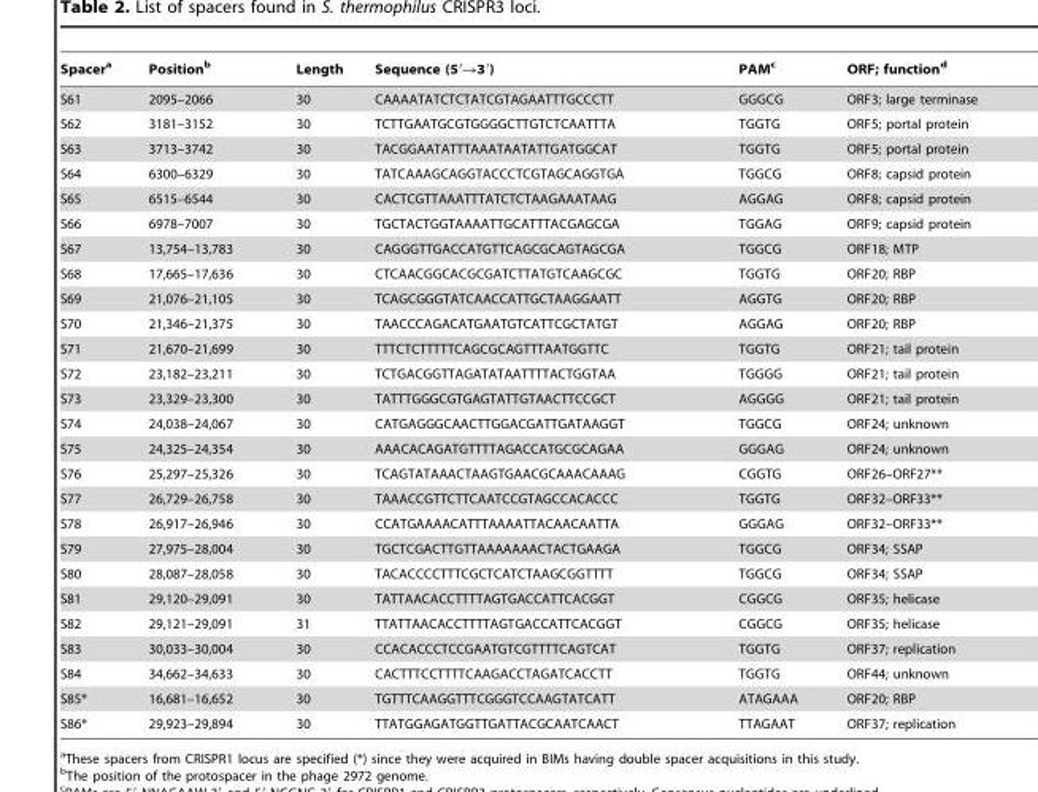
<table><thead><tr><td>Spacer<sup>a</sup></td><td>Position<sup>b</sup></td><td>Length</td><td>Sequence (5′→3′)</td><td>PAM<sup>c</sup></td><td>ORF; function<sup>d</sup></td></tr></thead><tbody><tr><td>S61</td><td>2095–2066</td><td>30</td><td>CAAAATATCTCTATCGTAGAATTTGCCCTT</td><td>GGGCG</td><td>ORF3; large terminase</td></tr><tr><td>S62</td><td>3181–3152</td><td>30</td><td>TCTTGAATGCGTGGGGCTTGTCTCAATTTA</td><td>TGGTG</td><td>ORF5; portal protein</td></tr><tr><td>S63</td><td>3713–3742</td><td>30</td><td>TACGGAATATTTAAATAATATTGATGGCAT</td><td>TGGTG</td><td>ORF5; portal protein</td></tr><tr><td>S64</td><td>6300–6329</td><td>30</td><td>TATCAAAGCAGGTACCCTCGTAGCAGGTGA</td><td>TGGCG</td><td>ORF8; capsid protein</td></tr><tr><td>S65</td><td>6515–6544</td><td>30</td><td>CACTCGTTAAATTTATCTCTAAGAAATAAG</td><td>AGGAG</td><td>ORF8; capsid protein</td></tr><tr><td>S66</td><td>6978–7007</td><td>30</td><td>TGCTACTGGTAAAATTGCATTTACGAGCGA</td><td>TGGAG</td><td>ORF9; capsid protein</td></tr><tr><td>S67</td><td>13,754–13,783</td><td>30</td><td>CAGGGTTGACCATGTTCAGCGCAGTAGCGA</td><td>TGGCG</td><td>ORF18; MTP</td></tr><tr><td>S68</td><td>17,665–17,636</td><td>30</td><td>CTCAACGGCACGCGATCTTATGTCAAGCGC</td><td>TGGTG</td><td>ORF20; RBP</td></tr><tr><td>S69</td><td>21,076–21,105</td><td>30</td><td>TCAGCGGGTATCAACCATTGCTAAGGAATT</td><td>AGGTG</td><td>ORF20; RBP</td></tr><tr><td>S70</td><td>21,346–21,375</td><td>30</td><td>TAACCCAGACATGAATGTCATTCGCTATGT</td><td>AGGAG</td><td>ORF20; RBP</td></tr><tr><td>S71</td><td>21,670–21,699</td><td>30</td><td>TTTCTCTTTTTCAGCGCAGTTTAATGGTTC</td><td>TGGTG</td><td>ORF21; tail protein</td></tr><tr><td>S72</td><td>23,182–23,211</td><td>30</td><td>TCTGACGGTTAGATATAATTTTACTGGTAA</td><td>TGGGG</td><td>ORF21; tail protein</td></tr><tr><td>S73</td><td>23,329–23,300</td><td>30</td><td>TATTTGGGCGTGAGTATTGTAACTTCCGCT</td><td>AGGGG</td><td>ORF21; tail protein</td></tr><tr><td>S74</td><td>24,038–24,067</td><td>30</td><td>CATGAGGGCAACTTGGACGATTGATAAGGT</td><td>TGGCG</td><td>ORF24; unknown</td></tr><tr><td>S75</td><td>24,325–24,354</td><td>30</td><td>AAACACAGATGTTTTAGACCATGCGCAGAA</td><td>GGGAG</td><td>ORF24; unknown</td></tr><tr><td>S76</td><td>25,297–25,326</td><td>30</td><td>TCAGTATAAACTAAGTGAACGCAAACAAAG</td><td>CGGTG</td><td>ORF26–ORF27**</td></tr><tr><td>S77</td><td>26,729–26,758</td><td>30</td><td>TAAACCGTTCTTCAATCCGTAGCCACACCC</td><td>TGGTG</td><td>ORF32–ORF33**</td></tr><tr><td>S78</td><td>26,917–26,946</td><td>30</td><td>CCATGAAAACATTTAAAATTACAACAATTA</td><td>GGGAG</td><td>ORF32–ORF33**</td></tr><tr><td>S79</td><td>27,975–28,004</td><td>30</td><td>TGCTCGACTTGTTAAAAAAACTACTGAAGA</td><td>TGGCG</td><td>ORF34; SSAP</td></tr><tr><td>S80</td><td>28,087–28,058</td><td>30</td><td>TACACCCCTTTCGCTCATCTAAGCGGTTTT</td><td>TGGCG</td><td>ORF34; SSAP</td></tr><tr><td>S81</td><td>29,120–29,091</td><td>30</td><td>TATTAACACCTTTTAGTGACCATTCACGGT</td><td>CGGCG</td><td>ORF35; helicase</td></tr><tr><td>S82</td><td>29,121–29,091</td><td>31</td><td>TTATTAACACCTTTTAGTGACCATTCACGGT</td><td>CGGCG</td><td>ORF35; helicase</td></tr><tr><td>S83</td><td>30,033–30,004</td><td>30</td><td>CCACACCCTCCGAATGTCGTTTTCAGTCAT</td><td>TGGTG</td><td>ORF37; replication</td></tr><tr><td>S84</td><td>34,662–34,633</td><td>30</td><td>CACTTTCCTTTTCAAGACCTAGATCACCTT</td><td>TGGTG</td><td>ORF44; unknown</td></tr><tr><td>S85*</td><td>16,681–16,652</td><td>30</td><td>TGTTTCAAGGTTTCGGGTCCAAGTATCATT</td><td>ATAGAAA</td><td>ORF20; RBP</td></tr><tr><td>S86*</td><td>29,923–29,894</td><td>30</td><td>TTATGGAGATGGTTGATTACGCAATCAACT</td><td>TTAGAAT</td><td>ORF37; replication</td></tr></tbody></table>